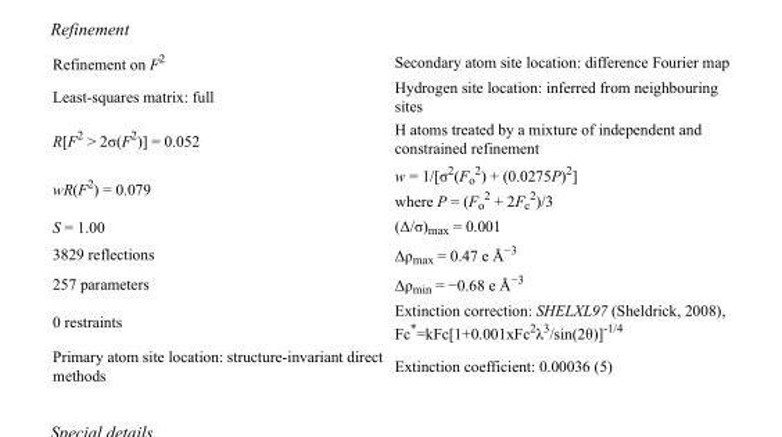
<table><tbody><tr><td>Refinement on F<sup>2</sup></td><td>Secondary atom site location: difference Fourier map</td></tr><tr><td>Least-squares matrix: full</td><td>Hydrogen site location: inferred from neighbouring sites</td></tr><tr><td>R[F<sup>2</sup> &gt; 2σ(F<sup>2</sup>)] = 0.052</td><td>H atoms treated by a mixture of independent and constrained refinement</td></tr><tr><td>wR(F<sup>2</sup>) = 0.079</td><td>w = 1/[σ<sup>2</sup>(F<sub>o</sub> <sup>2</sup>) + (0.0275P)<sup>2</sup>] where P = (F<sub>o</sub> <sup>2</sup> + 2F<sub>c</sub> <sup>2</sup>)/3</td></tr><tr><td>S = 1.00</td><td>(Δ/σ)<sub>max</sub> = 0.001</td></tr><tr><td>3829 reflections</td><td>Δρ<sub>max</sub> = 0.47 e Å<sup>−3</sup></td></tr><tr><td>257 parameters</td><td>Δρ<sub>min</sub> = −0.68 e Å<sup>−3</sup></td></tr><tr><td>0 restraints</td><td>Extinction correction: SHELXL97 (Sheldrick, 2008), Fc*=kFc[1+0.001xFc<sup>2</sup>λ<sup>3</sup>/sin(2θ)]<sup>-1/4</sup></td></tr><tr><td>Primary atom site location: structure-invariant direct methods</td><td>Extinction coefficient: 0.00036 (5)</td></tr></tbody></table>